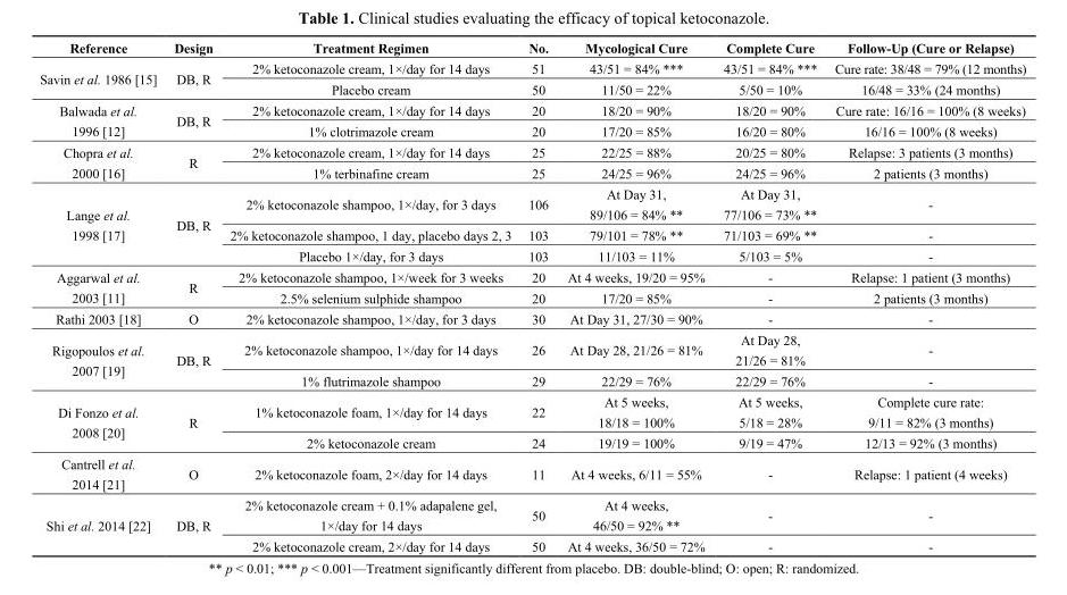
<table><thead><tr><td>Reference</td><td>Design</td><td>Treatment Regimen</td><td>No.</td><td>Mycological Cure</td><td>Complete Cure</td><td>Follow-Up (Cure or Relapse)</td></tr></thead><tbody><tr><td rowspan="2">Savin et al. 1986 [15]</td><td rowspan="2">DB, R</td><td>2% ketoconazole cream, 1×/day for 14 days</td><td>51</td><td>43/51 = 84% ***</td><td>43/51 = 84% ***</td><td>Cure rate: 38/48 = 79% (12 months)</td></tr><tr><td>Placebo cream</td><td>50</td><td>11/50 = 22%</td><td>5/50 = 10%</td><td>16/48 = 33% (24 months)</td></tr><tr><td rowspan="2">Balwada et al. 1996 [12]</td><td rowspan="2">DB, R</td><td>2% ketoconazole cream, 1×/day for 14 days</td><td>20</td><td>18/20 = 90%</td><td>18/20 = 90%</td><td>Cure rate: 16/16 = 100% (8 weeks)</td></tr><tr><td>1% clotrimazole cream</td><td>20</td><td>17/20 = 85%</td><td>16/20 = 80%</td><td>16/16 = 100% (8 weeks)</td></tr><tr><td rowspan="2">Chopra et al. 2000 [16]</td><td rowspan="2">R</td><td>2% ketoconazole cream, 1×/day for 14 days</td><td>25</td><td>22/25 = 88%</td><td>20/25 = 80%</td><td>Relapse: 3 patients (3 months)</td></tr><tr><td>1% terbinafine cream</td><td>25</td><td>24/25 = 96%</td><td>24/25 = 96%</td><td>2 patients (3 months)</td></tr><tr><td rowspan="3">Lange et al. 1998 [17]</td><td rowspan="3">DB, R</td><td>2% ketoconazole shampoo, 1×/day, for 3 days</td><td>106</td><td>At Day 31, 89/106 = 84% **</td><td>At Day 31, 77/106 = 73% **</td><td>-</td></tr><tr><td>2% ketoconazole shampoo, 1 day, placebo days 2, 3</td><td>103</td><td>79/101 = 78% **</td><td>71/103 = 69% **</td><td>-</td></tr><tr><td>Placebo 1×/day, for 3 days</td><td>103</td><td>11/103 = 11%</td><td>5/103 = 5%</td><td>-</td></tr><tr><td rowspan="2">Aggarwal et al. 2003 [11]</td><td rowspan="2">R</td><td>2% ketoconazole shampoo, 1×/week for 3 weeks</td><td>20</td><td>At 4 weeks, 19/20 = 95%</td><td>-</td><td>Relapse: 1 patient (3 months)</td></tr><tr><td>2.5% selenium sulphide shampoo</td><td>20</td><td>17/20 = 85%</td><td>-</td><td>2 patients (3 months)</td></tr><tr><td>Rathi 2003 [18]</td><td>O</td><td>2% ketoconazole shampoo, 1×/day, for 3 days</td><td>30</td><td>At Day 31, 27/30 = 90%</td><td>-</td><td>-</td></tr><tr><td rowspan="2">Rigopoulos et al. 2007 [19]</td><td rowspan="2">DB, R</td><td>2% ketoconazole shampoo, 1×/day for 14 days</td><td>26</td><td>At Day 28, 21/26 = 81%</td><td>At Day 28, 21/26 = 81%</td><td>-</td></tr><tr><td>1% flutrimazole shampoo</td><td>29</td><td>22/29 = 76%</td><td>22/29 = 76%</td><td>-</td></tr><tr><td rowspan="2">Di Fonzo et al. 2008 [20]</td><td rowspan="2">R</td><td>1% ketoconazole foam, 1×/day for 14 days</td><td>22</td><td>At 5 weeks, 18/18 = 100%</td><td>At 5 weeks, 5/18 = 28%</td><td>Complete cure rate: 9/11 = 82% (3 months)</td></tr><tr><td>2% ketoconazole cream</td><td>24</td><td>19/19 = 100%</td><td>9/19 = 47%</td><td>12/13 = 92% (3 months)</td></tr><tr><td>Cantrell et al. 2014 [21]</td><td>O</td><td>2% ketoconazole foam, 2×/day for 14 days</td><td>11</td><td>At 4 weeks, 6/11 = 55%</td><td>-</td><td>Relapse: 1 patient (4 weeks)</td></tr><tr><td rowspan="2">Shi et al. 2014 [22]</td><td rowspan="2">DB, R</td><td>2% ketoconazole cream + 0.1% adapalene gel, 1×/day for 14 days</td><td>50</td><td>At 4 weeks, 46/50 = 92% **</td><td>-</td><td>-</td></tr><tr><td>2% ketoconazole cream, 2×/day for 14 days</td><td>50</td><td>At 4 weeks, 36/50 = 72%</td><td>-</td><td>-</td></tr></tbody></table>